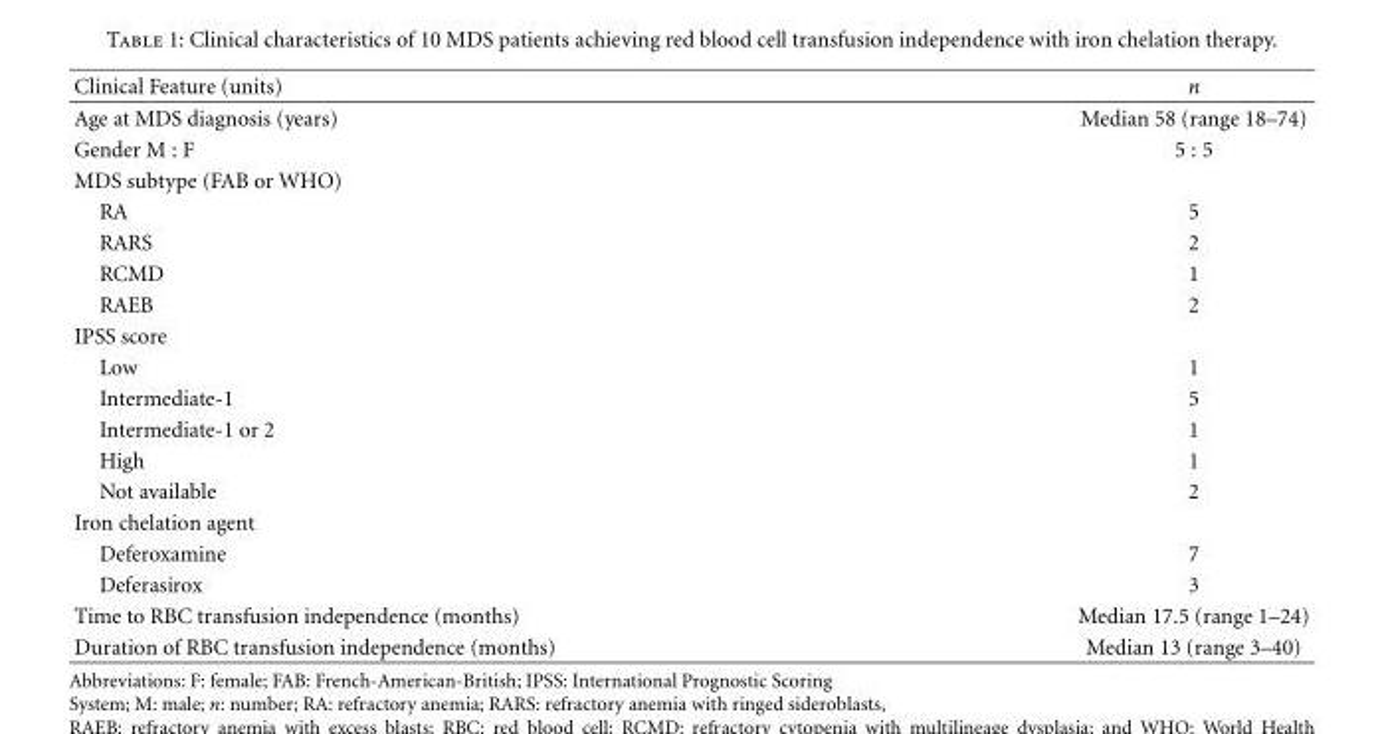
<table><thead><tr><td>Clinical Feature (units)</td><td>n</td></tr></thead><tbody><tr><td>Age at MDS diagnosis (years)</td><td>Median 58 (range 18–74)</td></tr><tr><td>Gender M : F</td><td>5 : 5</td></tr><tr><td colspan="2">MDS subtype (FAB or WHO)</td></tr><tr><td>RA</td><td>5</td></tr><tr><td>RARS</td><td>2</td></tr><tr><td>RCMD</td><td>1</td></tr><tr><td>RAEB</td><td>2</td></tr><tr><td colspan="2">IPSS score</td></tr><tr><td>Low</td><td>1</td></tr><tr><td>Intermediate-1</td><td>5</td></tr><tr><td>Intermediate-1 or 2</td><td>1</td></tr><tr><td>High</td><td>1</td></tr><tr><td>Not available</td><td>2</td></tr><tr><td colspan="2">Iron chelation agent</td></tr><tr><td>Deferoxamine</td><td>7</td></tr><tr><td>Deferasirox</td><td>3</td></tr><tr><td>Time to RBC transfusion independence (months)</td><td>Median 17.5 (range 1–24)</td></tr><tr><td>Duration of RBC transfusion independence (months)</td><td>Median 13 (range 3–40)</td></tr></tbody></table>